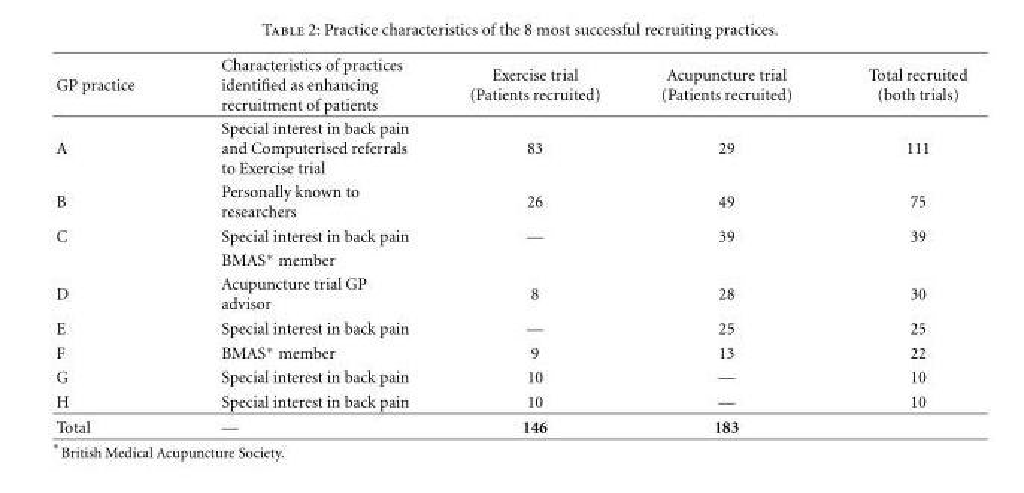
<table><thead><tr><td>GP practice</td><td>Characteristics of practices identified as enhancing recruitment of patients</td><td>Exercise trial (Patients recruited)</td><td>Acupuncture trial (Patients recruited)</td><td>Total recruited (both trials)</td></tr></thead><tbody><tr><td>A</td><td>Special interest in back pain and Computerised referrals to Exercise trial</td><td>83</td><td>29</td><td>111</td></tr><tr><td>B</td><td>Personally known to researchers</td><td>26</td><td>49</td><td>75</td></tr><tr><td rowspan="2">C</td><td>Special interest in back pain</td><td>—</td><td>39</td><td>39</td></tr><tr><td>BMAS∗ member</td><td></td><td></td><td></td></tr><tr><td>D</td><td>Acupuncture trial GP advisor</td><td>8</td><td>28</td><td>30</td></tr><tr><td>E</td><td>Special interest in back pain</td><td>—</td><td>25</td><td>25</td></tr><tr><td>F</td><td>BMAS∗ member</td><td>9</td><td>13</td><td>22</td></tr><tr><td>G</td><td>Special interest in back pain</td><td>10</td><td>—</td><td>10</td></tr><tr><td>H</td><td>Special interest in back pain</td><td>10</td><td>—</td><td>10</td></tr><tr><td>Total</td><td>—</td><td>146</td><td>183</td><td></td></tr></tbody></table>